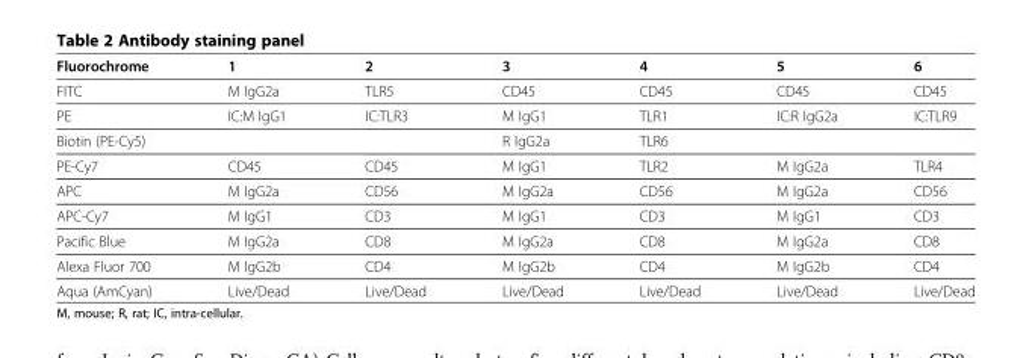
<table><thead><tr><td>Fluorochrome</td><td>1</td><td>2</td><td>3</td><td>4</td><td>5</td><td>6</td></tr></thead><tbody><tr><td>FITC</td><td>M IgG2a</td><td>TLR5</td><td>CD45</td><td>CD45</td><td>CD45</td><td>CD45</td></tr><tr><td>PE</td><td>IC:M IgG1</td><td>IC:TLR3</td><td>M IgG1</td><td>TLR1</td><td>IC:R IgG2a</td><td>IC:TLR9</td></tr><tr><td>Biotin (PE-Cy5)</td><td></td><td></td><td>R IgG2a</td><td>TLR6</td><td></td><td></td></tr><tr><td>PE-Cy7</td><td>CD45</td><td>CD45</td><td>M IgG1</td><td>TLR2</td><td>M IgG2a</td><td>TLR4</td></tr><tr><td>APC</td><td>M IgG2a</td><td>CD56</td><td>M IgG2a</td><td>CD56</td><td>M IgG2a</td><td>CD56</td></tr><tr><td>APC-Cy7</td><td>M IgG1</td><td>CD3</td><td>M IgG1</td><td>CD3</td><td>M IgG1</td><td>CD3</td></tr><tr><td>Pacific Blue</td><td>M IgG2a</td><td>CD8</td><td>M IgG2a</td><td>CD8</td><td>M IgG2a</td><td>CD8</td></tr><tr><td>Alexa Fluor 700</td><td>M IgG2b</td><td>CD4</td><td>M IgG2b</td><td>CD4</td><td>M IgG2b</td><td>CD4</td></tr><tr><td>Aqua (AmCyan)</td><td>Live/Dead</td><td>Live/Dead</td><td>Live/Dead</td><td>Live/Dead</td><td>Live/Dead</td><td>Live/Dead</td></tr></tbody></table>